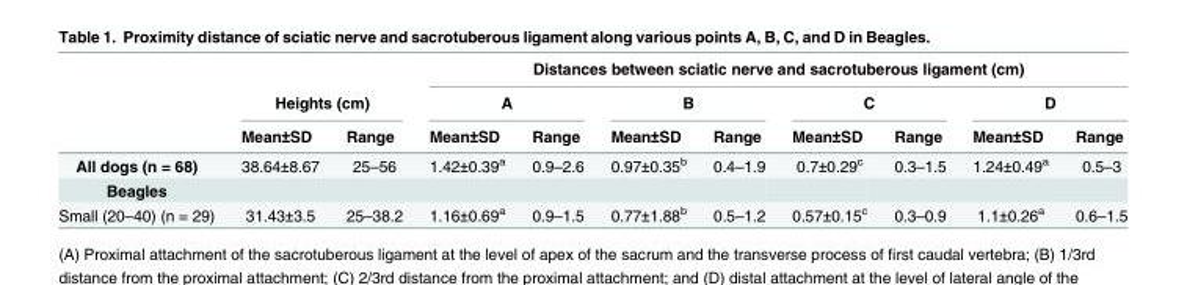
<table><thead><tr><td rowspan="3"></td><td></td><td></td><td colspan="8">Distances between sciatic nerve and sacrotuberous ligament (cm)</td></tr><tr><td colspan="2">Heights (cm)</td><td colspan="2">A</td><td colspan="2">B</td><td colspan="2">C</td><td colspan="2">D</td></tr><tr><td>Mean±SD</td><td>Range</td><td>Mean±SD</td><td>Range</td><td>Mean±SD</td><td>Range</td><td>Mean±SD</td><td>Range</td><td>Mean±SD</td><td>Range</td></tr></thead><tbody><tr><td>All dogs (n = 68)</td><td>38.64±8.67</td><td>25–56</td><td>1.42±0.39<sup>a</sup></td><td>0.9–2.6</td><td>0.97±0.35<sup>b</sup></td><td>0.4–1.9</td><td>0.7±0.29<sup>c</sup></td><td>0.3–1.5</td><td>1.24±0.49<sup>a</sup></td><td>0.5–3</td></tr><tr><td colspan="11">Beagles</td></tr><tr><td>Small (20–40) (n = 29)</td><td>31.43±3.5</td><td>25–38.2</td><td>1.16±0.69<sup>a</sup></td><td>0.9–1.5</td><td>0.77±1.88<sup>b</sup></td><td>0.5–1.2</td><td>0.57±0.15<sup>c</sup></td><td>0.3–0.9</td><td>1.1±0.26<sup>a</sup></td><td>0.6–1.5</td></tr></tbody></table>